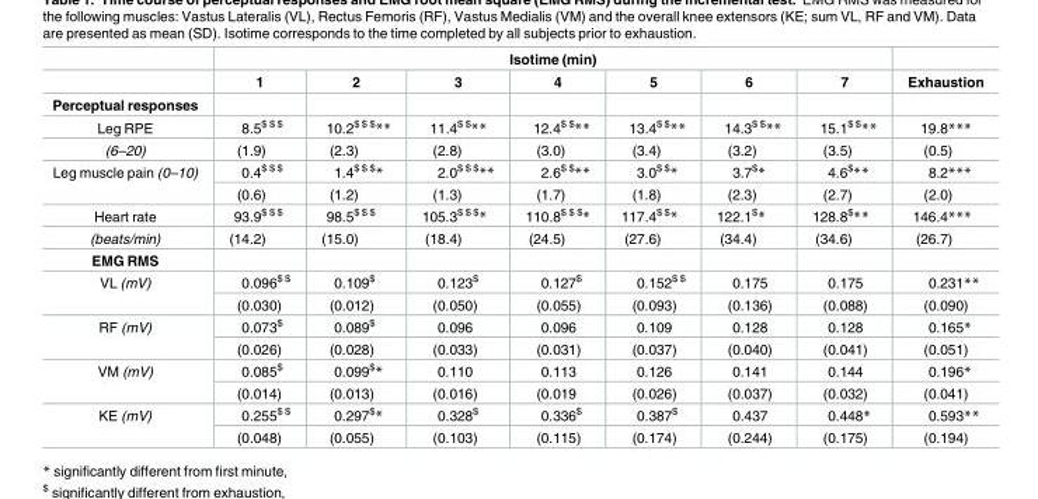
<table><thead><tr><td rowspan="3">Perceptual responses</td><td colspan="7">Isotime (min)</td><td rowspan="3">Exhaustion</td></tr><tr><td rowspan="2">1</td><td rowspan="2">2</td><td rowspan="2">3</td><td rowspan="2">4</td><td rowspan="2">5</td><td rowspan="2">6</td><td rowspan="2">7</td></tr><tr></tr></thead><tbody><tr><td>Leg RPE</td><td>8.5<sup>$ $ $</sup></td><td>10.2<sup>$ $ $</sup>**</td><td>11.4<sup>$ $</sup>**</td><td>12.4<sup>$ $</sup>**</td><td>13.4<sup>$ $</sup>**</td><td>14.3<sup>$ $</sup>**</td><td>15.1<sup>$ $</sup>**</td><td>19.8***</td></tr><tr><td>(6–20)</td><td>(1.9)</td><td>(2.3)</td><td>(2.8)</td><td>(3.0)</td><td>(3.4)</td><td>(3.2)</td><td>(3.5)</td><td>(0.5)</td></tr><tr><td rowspan="2">Leg muscle pain (0–10)</td><td>0.4<sup>$ $ $</sup></td><td>1.4<sup>$ $ $</sup>*</td><td>2.0<sup>$ $ $</sup>**</td><td>2.6<sup>$ $</sup>**</td><td>3.0<sup>$ $</sup>*</td><td>3.7<sup>$</sup>*</td><td>4.6<sup>$</sup>**</td><td>8.2***</td></tr><tr><td>(0.6)</td><td>(1.2)</td><td>(1.3)</td><td>(1.7)</td><td>(1.8)</td><td>(2.3)</td><td>(2.7)</td><td>(2.0)</td></tr><tr><td>Heart rate</td><td>93.9<sup>$ $ $</sup></td><td>98.5<sup>$ $ $</sup></td><td>105.3<sup>$ $ $</sup>*</td><td>110.8<sup>$ $ $</sup>*</td><td>117.4<sup>$ $</sup>*</td><td>122.1<sup>$</sup>*</td><td>128.8<sup>$</sup>**</td><td>146.4***</td></tr><tr><td>(beats/min)</td><td>(14.2)</td><td>(15.0)</td><td>(18.4)</td><td>(24.5)</td><td>(27.6)</td><td>(34.4)</td><td>(34.6)</td><td>(26.7)</td></tr><tr><td colspan="9">EMG RMS</td></tr><tr><td rowspan="2">VL (mV)</td><td>0.096<sup>$ $</sup></td><td>0.109<sup>$</sup></td><td>0.123<sup>$</sup></td><td>0.127<sup>$</sup></td><td>0.152<sup>$ $</sup></td><td>0.175</td><td>0.175</td><td>0.231**</td></tr><tr><td>(0.030)</td><td>(0.012)</td><td>(0.050)</td><td>(0.055)</td><td>(0.093)</td><td>(0.136)</td><td>(0.088)</td><td>(0.090)</td></tr><tr><td rowspan="2">RF (mV)</td><td>0.073<sup>$</sup></td><td>0.089<sup>$</sup></td><td>0.096</td><td>0.096</td><td>0.109</td><td>0.128</td><td>0.128</td><td>0.165*</td></tr><tr><td>(0.026)</td><td>(0.028)</td><td>(0.033)</td><td>(0.031)</td><td>(0.037)</td><td>(0.040)</td><td>(0.041)</td><td>(0.051)</td></tr><tr><td rowspan="2">VM (mV)</td><td>0.085<sup>$</sup></td><td>0.099<sup>$</sup>*</td><td>0.110</td><td>0.113</td><td>0.126</td><td>0.141</td><td>0.144</td><td>0.196*</td></tr><tr><td>(0.014)</td><td>(0.013)</td><td>(0.016)</td><td>(0.019</td><td>(0.026)</td><td>(0.037)</td><td>(0.032)</td><td>(0.041)</td></tr><tr><td rowspan="2">KE (mV)</td><td>0.255<sup>$ $</sup></td><td>0.297<sup>$</sup>*</td><td>0.328<sup>$</sup></td><td>0.336<sup>$</sup></td><td>0.387<sup>$</sup></td><td>0.437</td><td>0.448*</td><td>0.593**</td></tr><tr><td>(0.048)</td><td>(0.055)</td><td>(0.103)</td><td>(0.115)</td><td>(0.174)</td><td>(0.244)</td><td>(0.175)</td><td>(0.194)</td></tr></tbody></table>